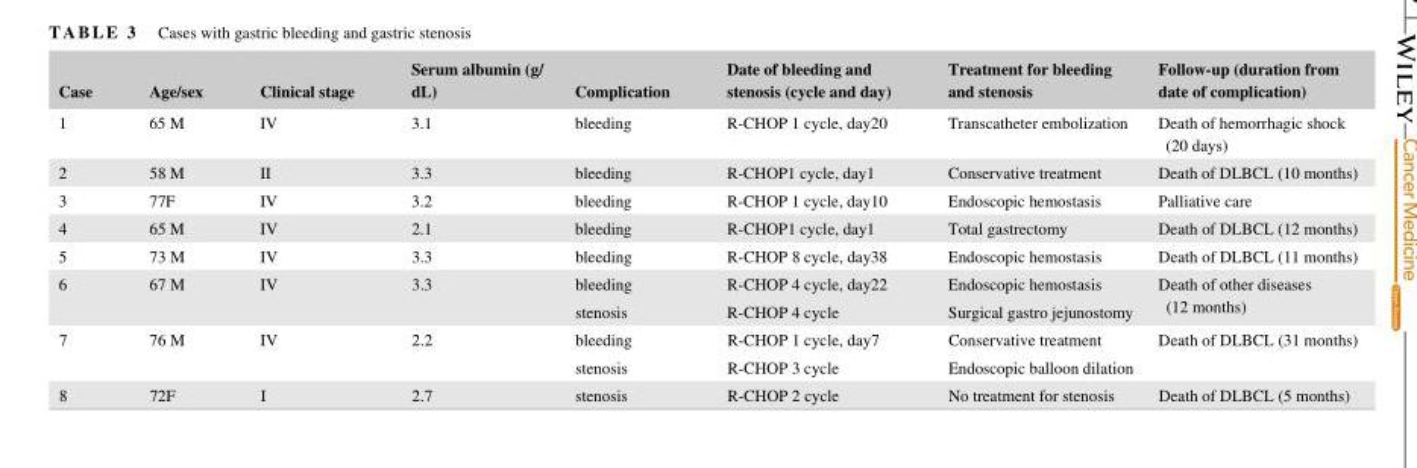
<table><thead><tr><td>Case</td><td>Age/sex</td><td>Clinical stage</td><td>Serum albumin (g/ dL)</td><td>Complication</td><td>Date of bleeding and stenosis (cycle and day)</td><td>Treatment for bleeding and stenosis</td><td>Follow‐up (duration from date of complication)</td></tr></thead><tbody><tr><td>1</td><td>65 M</td><td>IV</td><td>3.1</td><td>bleeding</td><td>R‐CHOP 1 cycle, day20</td><td>Transcatheter embolization</td><td>Death of hemorrhagic shock (20 days)</td></tr><tr><td>2</td><td>58 M</td><td>II</td><td>3.3</td><td>bleeding</td><td>R‐CHOP1 cycle, day1</td><td>Conservative treatment</td><td>Death of DLBCL (10 months)</td></tr><tr><td>3</td><td>77F</td><td>IV</td><td>3.2</td><td>bleeding</td><td>R‐CHOP 1 cycle, day10</td><td>Endoscopic hemostasis</td><td>Palliative care</td></tr><tr><td>4</td><td>65 M</td><td>IV</td><td>2.1</td><td>bleeding</td><td>R‐CHOP1 cycle, day1</td><td>Total gastrectomy</td><td>Death of DLBCL (12 months)</td></tr><tr><td>5</td><td>73 M</td><td>IV</td><td>3.3</td><td>bleeding</td><td>R‐CHOP 8 cycle, day38</td><td>Endoscopic hemostasis</td><td>Death of DLBCL (11 months)</td></tr><tr><td rowspan="2">6</td><td rowspan="2">67 M</td><td rowspan="2">IV</td><td rowspan="2">3.3</td><td>bleeding</td><td>R‐CHOP 4 cycle, day22</td><td>Endoscopic hemostasis</td><td rowspan="2">Death of other diseases (12 months)</td></tr><tr><td>stenosis</td><td>R‐CHOP 4 cycle</td><td>Surgical gastro jejunostomy</td></tr><tr><td rowspan="2">7</td><td rowspan="2">76 M</td><td rowspan="2">IV</td><td rowspan="2">2.2</td><td>bleeding</td><td>R‐CHOP 1 cycle, day7</td><td>Conservative treatment</td><td rowspan="2">Death of DLBCL (31 months)</td></tr><tr><td>stenosis</td><td>R‐CHOP 3 cycle</td><td>Endoscopic balloon dilation</td></tr><tr><td>8</td><td>72F</td><td>I</td><td>2.7</td><td>stenosis</td><td>R‐CHOP 2 cycle</td><td>No treatment for stenosis</td><td>Death of DLBCL (5 months)</td></tr></tbody></table>